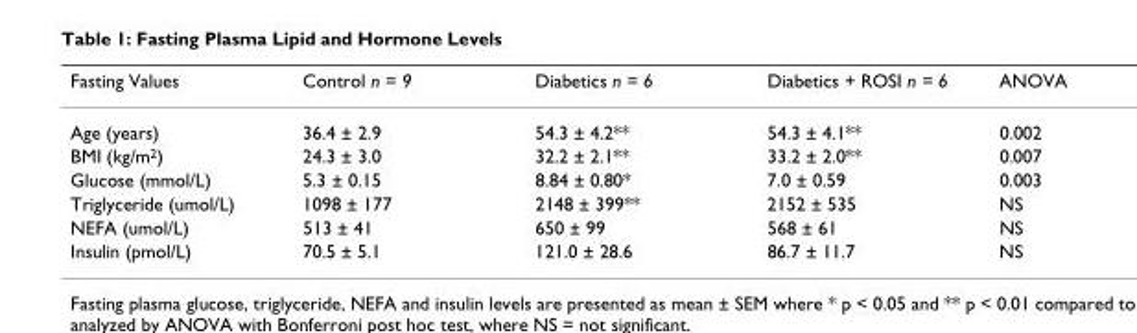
<table><thead><tr><td>Fasting Values</td><td>Control n = 9</td><td>Diabetics n = 6</td><td>Diabetics + ROSI n = 6</td><td>ANOVA</td></tr></thead><tbody><tr><td>Age (years)</td><td>36.4 ± 2.9</td><td>54.3 ± 4.2**</td><td>54.3 ± 4.1**</td><td>0.002</td></tr><tr><td>BMI (kg/m<sup>2</sup>)</td><td>24.3 ± 3.0</td><td>32.2 ± 2.1**</td><td>33.2 ± 2.0**</td><td>0.007</td></tr><tr><td>Glucose (mmol/L)</td><td>5.3 ± 0.15</td><td>8.84 ± 0.80*</td><td>7.0 ± 0.59</td><td>0.003</td></tr><tr><td>Triglyceride (umol/L)</td><td>1098 ± 177</td><td>2148 ± 399**</td><td>2152 ± 535</td><td>NS</td></tr><tr><td>NEFA (umol/L)</td><td>513 ± 41</td><td>650 ± 99</td><td>568 ± 61</td><td>NS</td></tr><tr><td>Insulin (pmol/L)</td><td>70.5 ± 5.1</td><td>121.0 ± 28.6</td><td>86.7 ± 11.7</td><td>NS</td></tr></tbody></table>